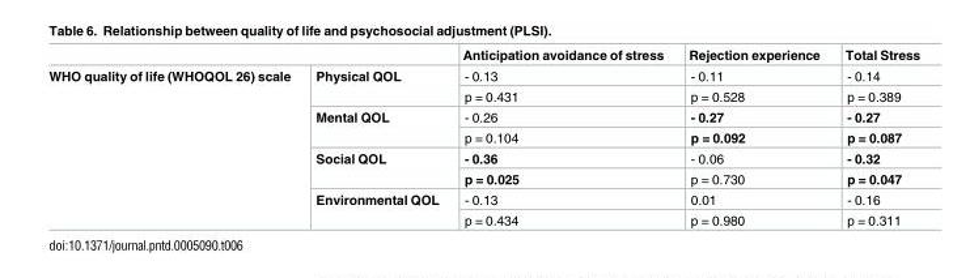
<table><thead><tr><td></td><td></td><td>Anticipation avoidance of stress</td><td>Rejection experience</td><td>Total Stress</td></tr></thead><tbody><tr><td rowspan="8">WHO quality of life (WHOQOL 26) scale</td><td rowspan="2">Physical QOL</td><td>- 0.13</td><td>- 0.11</td><td>- 0.14</td></tr><tr><td>p = 0.431</td><td>p = 0.528</td><td>p = 0.389</td></tr><tr><td rowspan="2">Mental QOL</td><td>- 0.26</td><td>- 0.27</td><td>- 0.27</td></tr><tr><td>p = 0.104</td><td>p = 0.092</td><td>p = 0.087</td></tr><tr><td rowspan="2">Social QOL</td><td>- 0.36</td><td>- 0.06</td><td>- 0.32</td></tr><tr><td>p = 0.025</td><td>p = 0.730</td><td>p = 0.047</td></tr><tr><td rowspan="2">Environmental QOL</td><td>- 0.13</td><td>0.01</td><td>- 0.16</td></tr><tr><td>p = 0.434</td><td>p = 0.980</td><td>p = 0.311</td></tr></tbody></table>